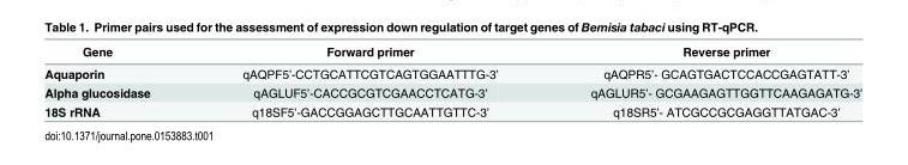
<table><thead><tr><td>Gene</td><td>Forward primer</td><td>Reverse primer</td></tr></thead><tbody><tr><td>Aquaporin</td><td>qAQPF5’-CCTGCATTCGTCAGTGGAATTTG-3’</td><td>qAQPR5’- GCAGTGACTCCACCGAGTATT-3’</td></tr><tr><td>Alpha glucosidase</td><td>qAGLUF5’-CACCGCGTCGAACCTCATG-3’</td><td>qAGLUR5’- GCGAAGAGTTGGTTCAAGAGATG-3’</td></tr><tr><td>18S rRNA</td><td>q18SF5’-GACCGGAGCTTGCAATTGTTC-3’</td><td>q18SR5’- ATCGCCGCGAGGTTATGAC-3’</td></tr></tbody></table>